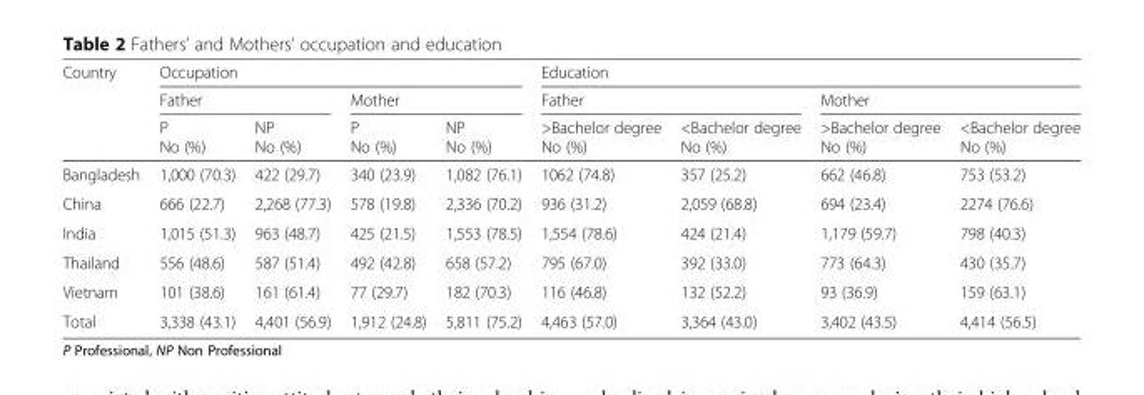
<table><thead><tr><td rowspan="3">Country</td><td colspan="4">Occupation</td><td colspan="4">Education</td></tr><tr><td colspan="2">Father</td><td colspan="2">Mother</td><td colspan="2">Father</td><td colspan="2">Mother</td></tr><tr><td>P No (%)</td><td>NP No (%)</td><td>P No (%)</td><td>NP No (%)</td><td>&gt;Bachelor degree No (%)</td><td>&lt;Bachelor degree No (%)</td><td>&gt;Bachelor degree No (%)</td><td>&lt;Bachelor degree No (%)</td></tr></thead><tbody><tr><td>Bangladesh</td><td>1,000 (70.3)</td><td>422 (29.7)</td><td>340 (23.9)</td><td>1,082 (76.1)</td><td>1062 (74.8)</td><td>357 (25.2)</td><td>662 (46.8)</td><td>753 (53.2)</td></tr><tr><td>China</td><td>666 (22.7)</td><td>2,268 (77.3)</td><td>578 (19.8)</td><td>2,336 (70.2)</td><td>936 (31.2)</td><td>2,059 (68.8)</td><td>694 (23.4)</td><td>2274 (76.6)</td></tr><tr><td>India</td><td>1,015 (51.3)</td><td>963 (48.7)</td><td>425 (21.5)</td><td>1,553 (78.5)</td><td>1,554 (78.6)</td><td>424 (21.4)</td><td>1,179 (59.7)</td><td>798 (40.3)</td></tr><tr><td>Thailand</td><td>556 (48.6)</td><td>587 (51.4)</td><td>492 (42.8)</td><td>658 (57.2)</td><td>795 (67.0)</td><td>392 (33.0)</td><td>773 (64.3)</td><td>430 (35.7)</td></tr><tr><td>Vietnam</td><td>101 (38.6)</td><td>161 (61.4)</td><td>77 (29.7)</td><td>182 (70.3)</td><td>116 (46.8)</td><td>132 (52.2)</td><td>93 (36.9)</td><td>159 (63.1)</td></tr><tr><td>Total</td><td>3,338 (43.1)</td><td>4,401 (56.9)</td><td>1,912 (24.8)</td><td>5,811 (75.2)</td><td>4,463 (57.0)</td><td>3,364 (43.0)</td><td>3,402 (43.5)</td><td>4,414 (56.5)</td></tr></tbody></table>